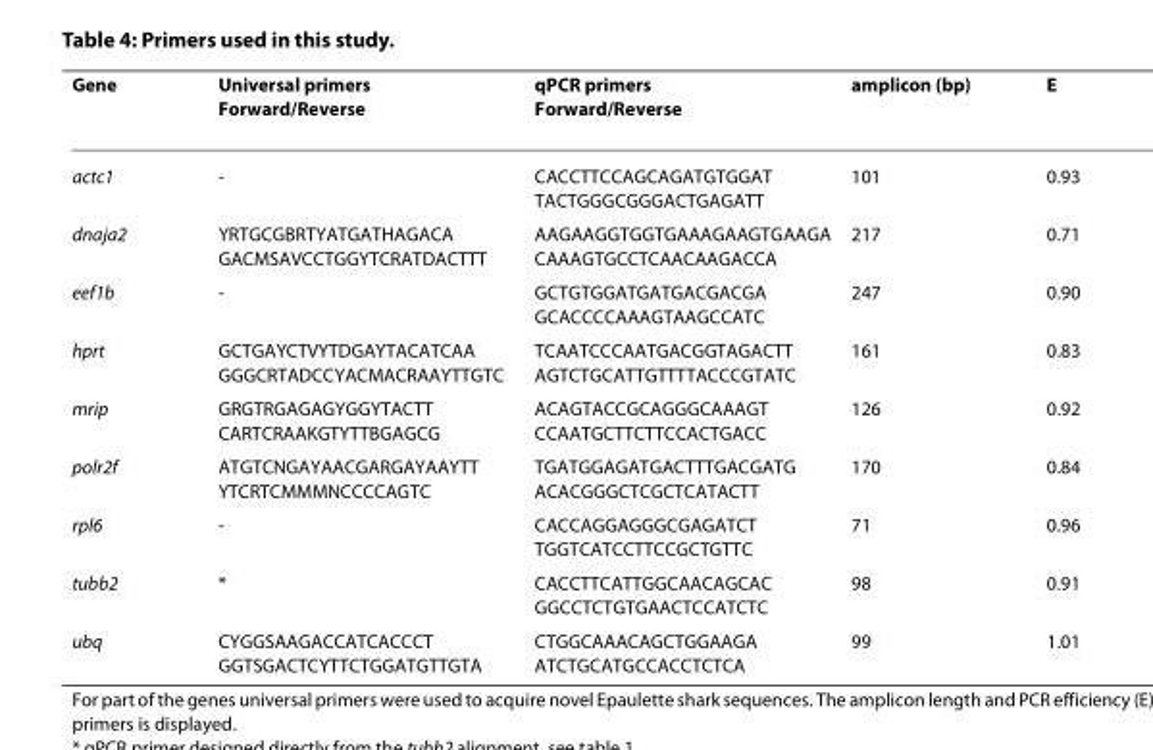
<table><thead><tr><td>Gene</td><td>Universal primers Forward/Reverse</td><td>qPCR primers Forward/Reverse</td><td>amplicon (bp)</td><td>E</td></tr></thead><tbody><tr><td>actc1</td><td>-</td><td>CACCTTCCAGCAGATGTGGAT TACTGGGCGGGACTGAGATT</td><td>101</td><td>0.93</td></tr><tr><td>dnaja2</td><td>YRTGCGBRTYATGATHAGACA GACMSAVCCTGGYTCRATDACTTT</td><td>AAGAAGGTGGTGAAAGAAGTGAAGA CAAAGTGCCTCAACAAGACCA</td><td>217</td><td>0.71</td></tr><tr><td>eef1b</td><td>-</td><td>GCTGTGGATGATGACGACGA GCACCCCAAAGTAAGCCATC</td><td>247</td><td>0.90</td></tr><tr><td>hprt</td><td>GCTGAYCTVYTDGAYTACATCAA GGGCRTADCCYACMACRAAYTTGTC</td><td>TCAATCCCAATGACGGTAGACTT AGTCTGCATTGTTTTACCCGTATC</td><td>161</td><td>0.83</td></tr><tr><td>mrip</td><td>GRGTRGAGAGYGGYTACTT CARTCRAAKGTYTTBGAGCG</td><td>ACAGTACCGCAGGGCAAAGT CCAATGCTTCTTCCACTGACC</td><td>126</td><td>0.92</td></tr><tr><td>polr2f</td><td>ATGTCNGAYAACGARGAYAAYTT YTCRTCMMMNCCCCAGTC</td><td>TGATGGAGATGACTTTGACGATG ACACGGGCTCGCTCATACTT</td><td>170</td><td>0.84</td></tr><tr><td>rpl6</td><td>-</td><td>CACCAGGAGGGCGAGATCT TGGTCATCCTTCCGCTGTTC</td><td>71</td><td>0.96</td></tr><tr><td>tubb2</td><td>*</td><td>CACCTTCATTGGCAACAGCAC GGCCTCTGTGAACTCCATCTC</td><td>98</td><td>0.91</td></tr><tr><td>ubq</td><td>CYGGSAAGACCATCACCCT GGTSGACTCYTTCTGGATGTTGTA</td><td>CTGGCAAACAGCTGGAAGA ATCTGCATGCCACCTCTCA</td><td>99</td><td>1.01</td></tr></tbody></table>